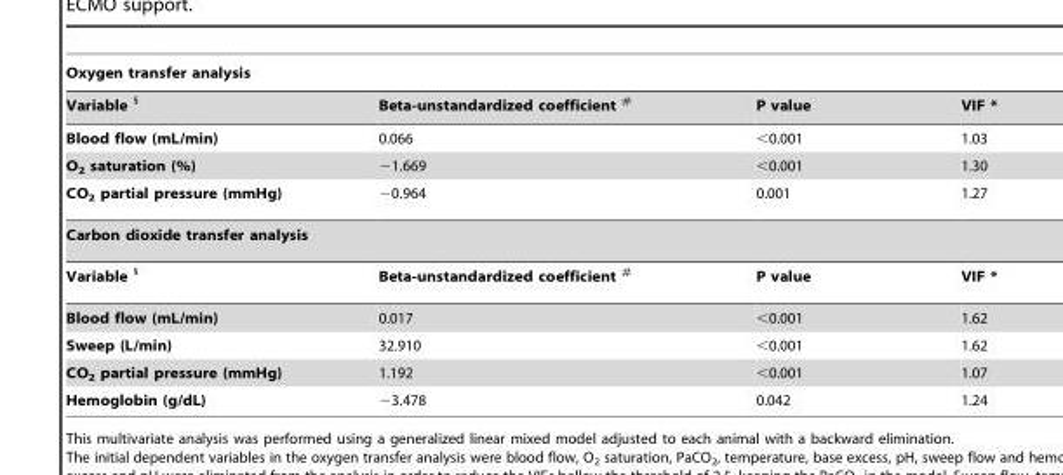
<table><thead><tr><td colspan="4">Oxygen transfer analysis</td></tr><tr><td>Variable §</td><td>Beta-unstandardized coefficient <sup>#</sup></td><td>P value</td><td>VIF *</td></tr></thead><tbody><tr><td>Blood flow (mL/min)</td><td>0.066</td><td>&lt;0.001</td><td>1.03</td></tr><tr><td>O<sub>2</sub> saturation (%)</td><td>−1.669</td><td>&lt;0.001</td><td>1.30</td></tr><tr><td>CO<sub>2</sub> partial pressure (mmHg)</td><td>−0.964</td><td>0.001</td><td>1.27</td></tr><tr><td colspan="4">Carbon dioxide transfer analysis</td></tr><tr><td>Variable §</td><td>Beta-unstandardized coefficient <sup>#</sup></td><td>P value</td><td>VIF *</td></tr><tr><td>Blood flow (mL/min)</td><td>0.017</td><td>&lt;0.001</td><td>1.62</td></tr><tr><td>Sweep (L/min)</td><td>32.910</td><td>&lt;0.001</td><td>1.62</td></tr><tr><td>CO<sub>2</sub> partial pressure (mmHg)</td><td>1.192</td><td>&lt;0.001</td><td>1.07</td></tr><tr><td>Hemoglobin (g/dL)</td><td>−3.478</td><td>0.042</td><td>1.24</td></tr></tbody></table>